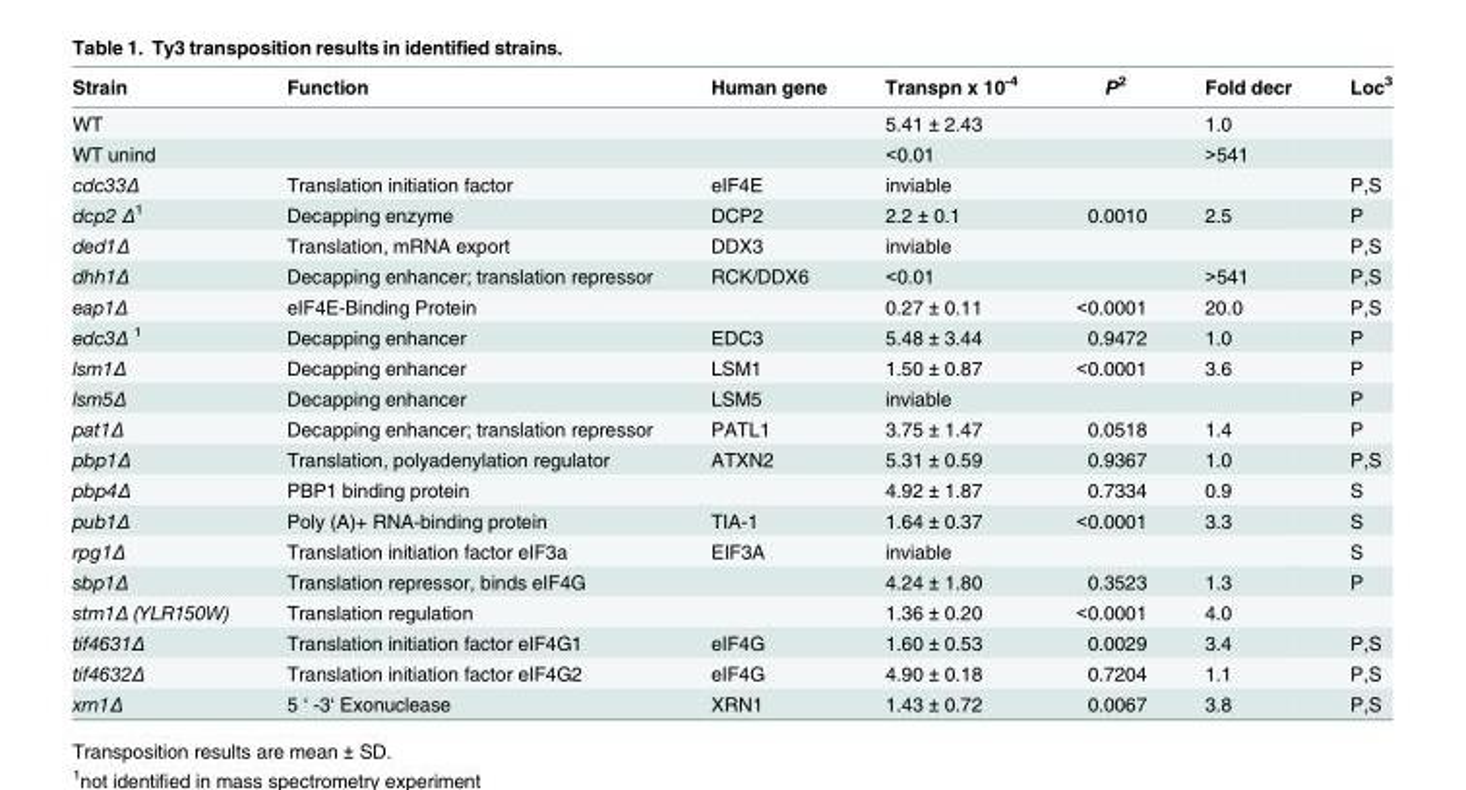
<table><thead><tr><td>Strain</td><td>Function</td><td>Human gene</td><td>Transpn x 10<sup>-4</sup></td><td>P<sup>2</sup></td><td>Fold decr</td><td>Loc<sup>3</sup></td></tr></thead><tbody><tr><td>WT</td><td></td><td></td><td>5.41 ± 2.43</td><td></td><td>1.0</td><td></td></tr><tr><td>WT unind</td><td></td><td></td><td>&lt;0.01</td><td></td><td>&gt;541</td><td></td></tr><tr><td>cdc33Δ</td><td>Translation initiation factor</td><td>eIF4E</td><td>inviable</td><td></td><td></td><td>P,S</td></tr><tr><td>dcp2 Δ<sup>1</sup></td><td>Decapping enzyme</td><td>DCP2</td><td>2.2 ± 0.1</td><td>0.0010</td><td>2.5</td><td>P</td></tr><tr><td>ded1Δ</td><td>Translation, mRNA export</td><td>DDX3</td><td>inviable</td><td></td><td></td><td>P,S</td></tr><tr><td>dhh1Δ</td><td>Decapping enhancer; translation repressor</td><td>RCK/DDX6</td><td>&lt;0.01</td><td></td><td>&gt;541</td><td>P,S</td></tr><tr><td>eap1Δ</td><td>eIF4E-Binding Protein</td><td></td><td>0.27 ± 0.11</td><td>&lt;0.0001</td><td>20.0</td><td>P,S</td></tr><tr><td>edc3Δ <sup>1</sup></td><td>Decapping enhancer</td><td>EDC3</td><td>5.48 ± 3.44</td><td>0.9472</td><td>1.0</td><td>P</td></tr><tr><td>lsm1Δ</td><td>Decapping enhancer</td><td>LSM1</td><td>1.50 ± 0.87</td><td>&lt;0.0001</td><td>3.6</td><td>P</td></tr><tr><td>lsm5Δ</td><td>Decapping enhancer</td><td>LSM5</td><td>inviable</td><td></td><td></td><td>P</td></tr><tr><td>pat1Δ</td><td>Decapping enhancer; translation repressor</td><td>PATL1</td><td>3.75 ± 1.47</td><td>0.0518</td><td>1.4</td><td>P</td></tr><tr><td>pbp1Δ</td><td>Translation, polyadenylation regulator</td><td>ATXN2</td><td>5.31 ± 0.59</td><td>0.9367</td><td>1.0</td><td>P,S</td></tr><tr><td>pbp4Δ</td><td>PBP1 binding protein</td><td></td><td>4.92 ± 1.87</td><td>0.7334</td><td>0.9</td><td>S</td></tr><tr><td>pub1Δ</td><td>Poly (A)+ RNA-binding protein</td><td>TIA-1</td><td>1.64 ± 0.37</td><td>&lt;0.0001</td><td>3.3</td><td>S</td></tr><tr><td>rpg1Δ</td><td>Translation initiation factor eIF3a</td><td>EIF3A</td><td>inviable</td><td></td><td></td><td>S</td></tr><tr><td>sbp1Δ</td><td>Translation repressor, binds eIF4G</td><td></td><td>4.24 ± 1.80</td><td>0.3523</td><td>1.3</td><td>P</td></tr><tr><td>stm1Δ (YLR150W)</td><td>Translation regulation</td><td></td><td>1.36 ± 0.20</td><td>&lt;0.0001</td><td>4.0</td><td></td></tr><tr><td>tif4631Δ</td><td>Translation initiation factor eIF4G1</td><td>eIF4G</td><td>1.60 ± 0.53</td><td>0.0029</td><td>3.4</td><td>P,S</td></tr><tr><td>tif4632Δ</td><td>Translation initiation factor eIF4G2</td><td>eIF4G</td><td>4.90 ± 0.18</td><td>0.7204</td><td>1.1</td><td>P,S</td></tr><tr><td>xrn1Δ</td><td>5 ‘ -3‘ Exonuclease</td><td>XRN1</td><td>1.43 ± 0.72</td><td>0.0067</td><td>3.8</td><td>P,S</td></tr></tbody></table>